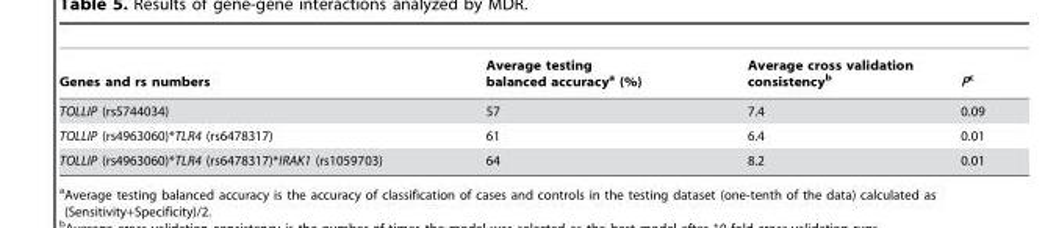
<table><thead><tr><td>Genes and rs numbers</td><td>Average testing balanced accuracy<sup>a</sup> (%)</td><td>Average cross validation consistency<sup>b</sup></td><td>Pc</td></tr></thead><tbody><tr><td>TOLLIP (rs5744034)</td><td>57</td><td>7.4</td><td>0.09</td></tr><tr><td>TOLLIP (rs4963060)*TLR4 (rs6478317)</td><td>61</td><td>6.4</td><td>0.01</td></tr><tr><td>TOLLIP (rs4963060)*TLR4 (rs6478317)*IRAK1 (rs1059703)</td><td>64</td><td>8.2</td><td>0.01</td></tr></tbody></table>